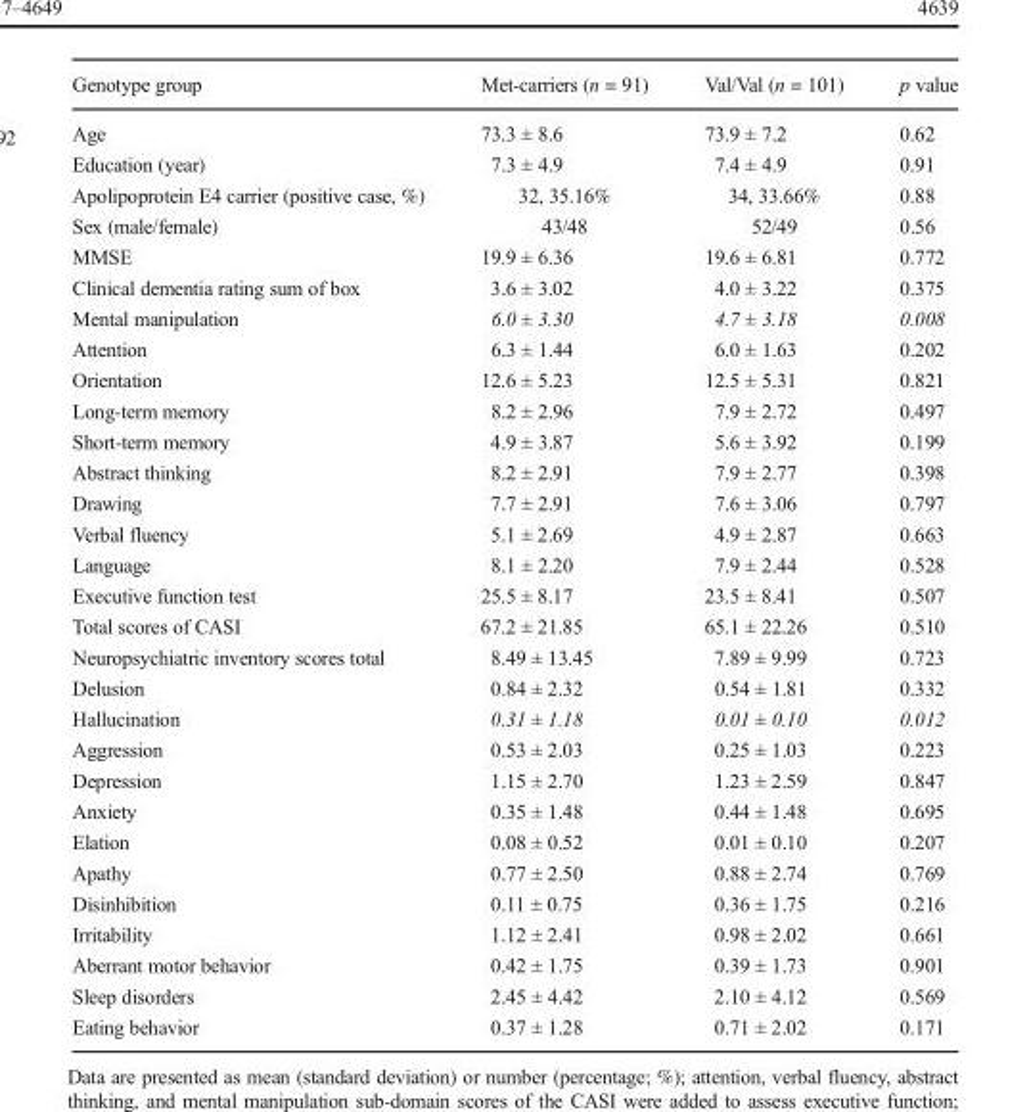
<table><thead><tr><td>Genotype group</td><td>Met-carriers (n = 91)</td><td>Val/Val (n = 101)</td><td>p value</td></tr></thead><tbody><tr><td>Age</td><td>73.3 ± 8.6</td><td>73.9 ± 7.2</td><td>0.62</td></tr><tr><td>Education (year)</td><td>7.3 ± 4.9</td><td>7.4 ± 4.9</td><td>0.91</td></tr><tr><td>Apolipoprotein E4 carrier (positive case, %)</td><td>32, 35.16%</td><td>34, 33.66%</td><td>0.88</td></tr><tr><td>Sex (male/female)</td><td>43/48</td><td>52/49</td><td>0.56</td></tr><tr><td>MMSE</td><td>19.9 ± 6.36</td><td>19.6 ± 6.81</td><td>0.772</td></tr><tr><td>Clinical dementia rating sum of box</td><td>3.6 ± 3.02</td><td>4.0 ± 3.22</td><td>0.375</td></tr><tr><td>Mental manipulation</td><td>6.0 ± 3.30</td><td>4.7 ± 3.18</td><td>0.008</td></tr><tr><td>Attention</td><td>6.3 ± 1.44</td><td>6.0 ± 1.63</td><td>0.202</td></tr><tr><td>Orientation</td><td>12.6 ± 5.23</td><td>12.5 ± 5.31</td><td>0.821</td></tr><tr><td>Long-term memory</td><td>8.2 ± 2.96</td><td>7.9 ± 2.72</td><td>0.497</td></tr><tr><td>Short-term memory</td><td>4.9 ± 3.87</td><td>5.6 ± 3.92</td><td>0.199</td></tr><tr><td>Abstract thinking</td><td>8.2 ± 2.91</td><td>7.9 ± 2.77</td><td>0.398</td></tr><tr><td>Drawing</td><td>7.7 ± 2.91</td><td>7.6 ± 3.06</td><td>0.797</td></tr><tr><td>Verbal fluency</td><td>5.1 ± 2.69</td><td>4.9 ± 2.87</td><td>0.663</td></tr><tr><td>Language</td><td>8.1 ± 2.20</td><td>7.9 ± 2.44</td><td>0.528</td></tr><tr><td>Executive function test</td><td>25.5 ± 8.17</td><td>23.5 ± 8.41</td><td>0.507</td></tr><tr><td>Total scores of CASI</td><td>67.2 ± 21.85</td><td>65.1 ± 22.26</td><td>0.510</td></tr><tr><td>Neuropsychiatric inventory scores total</td><td>8.49 ± 13.45</td><td>7.89 ± 9.99</td><td>0.723</td></tr><tr><td>Delusion</td><td>0.84 ± 2.32</td><td>0.54 ± 1.81</td><td>0.332</td></tr><tr><td>Hallucination</td><td>0.31 ± 1.18</td><td>0.01 ± 0.10</td><td>0.012</td></tr><tr><td>Aggression</td><td>0.53 ± 2.03</td><td>0.25 ± 1.03</td><td>0.223</td></tr><tr><td>Depression</td><td>1.15 ± 2.70</td><td>1.23 ± 2.59</td><td>0.847</td></tr><tr><td>Anxiety</td><td>0.35 ± 1.48</td><td>0.44 ± 1.48</td><td>0.695</td></tr><tr><td>Elation</td><td>0.08 ± 0.52</td><td>0.01 ± 0.10</td><td>0.207</td></tr><tr><td>Apathy</td><td>0.77 ± 2.50</td><td>0.88 ± 2.74</td><td>0.769</td></tr><tr><td>Disinhibition</td><td>0.11 ± 0.75</td><td>0.36 ± 1.75</td><td>0.216</td></tr><tr><td>Irritability</td><td>1.12 ± 2.41</td><td>0.98 ± 2.02</td><td>0.661</td></tr><tr><td>Aberrant motor behavior</td><td>0.42 ± 1.75</td><td>0.39 ± 1.73</td><td>0.901</td></tr><tr><td>Sleep disorders</td><td>2.45 ± 4.42</td><td>2.10 ± 4.12</td><td>0.569</td></tr><tr><td>Eating behavior</td><td>0.37 ± 1.28</td><td>0.71 ± 2.02</td><td>0.171</td></tr></tbody></table>